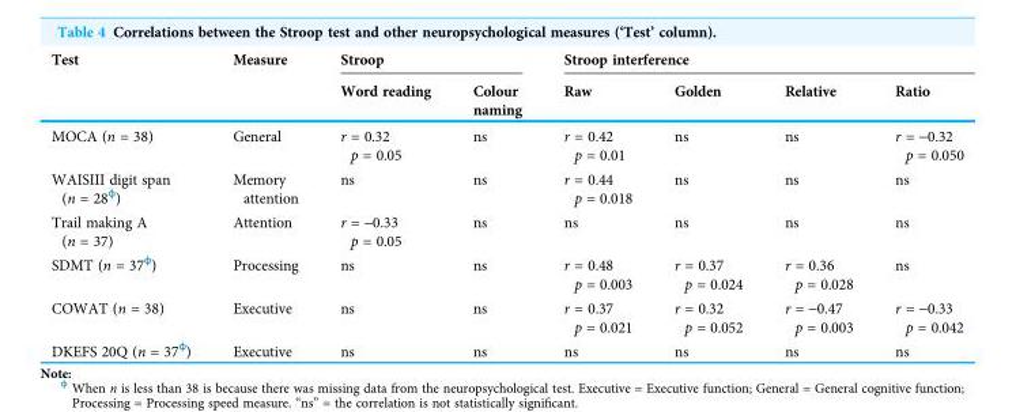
<table><thead><tr><td rowspan="2">Test</td><td rowspan="2">Measure</td><td colspan="2">Stroop</td><td colspan="4">Stroop interference</td></tr><tr><td>Word reading</td><td>Colour naming</td><td>Raw</td><td>Golden</td><td>Relative</td><td>Ratio</td></tr></thead><tbody><tr><td>MOCA (n = 38)</td><td>General</td><td>r = 0.32 p = 0.05</td><td>ns</td><td>r = 0.42 p = 0.01</td><td>ns</td><td>ns</td><td>r = -0.32 p = 0.050</td></tr><tr><td>WAISIII digit span (n = 28<sup>ϕ</sup>)</td><td>Memory attention</td><td>ns</td><td>ns</td><td>r = 0.44 p = 0.018</td><td>ns</td><td>ns</td><td>ns</td></tr><tr><td>Trail making A (n = 37)</td><td>Attention</td><td>r = -0.33 p = 0.05</td><td>ns</td><td>ns</td><td>ns</td><td>ns</td><td>ns</td></tr><tr><td>SDMT (n = 37<sup>ϕ</sup>)</td><td>Processing</td><td>ns</td><td>ns</td><td>r = 0.48 p = 0.003</td><td>r = 0.37 p = 0.024</td><td>r = 0.36 p = 0.028</td><td>ns</td></tr><tr><td>COWAT (n = 38)</td><td>Executive</td><td>ns</td><td>ns</td><td>r = 0.37 p = 0.021</td><td>r = 0.32 p = 0.052</td><td>r = -0.47 p = 0.003</td><td>r = -0.33 p = 0.042</td></tr><tr><td>DKEFS 20Q (n = 37<sup>ϕ</sup>)</td><td>Executive</td><td>ns</td><td>ns</td><td>ns</td><td>ns</td><td>ns</td><td>ns</td></tr></tbody></table>